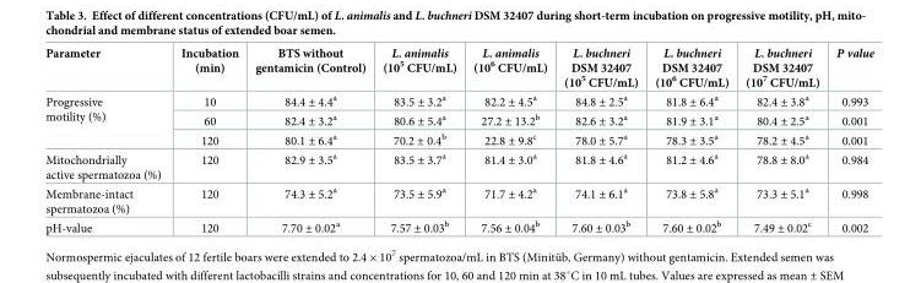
<table><thead><tr><td>Parameter</td><td>Incubation (min)</td><td>BTS without gentamicin (Control)</td><td>L. animalis (10<sup>5</sup> CFU/mL)</td><td>L. animalis (10<sup>6</sup> CFU/mL)</td><td>L. buchneri DSM 32407 (10<sup>5</sup> CFU/mL)</td><td>L. buchneri DSM 32407 (10<sup>6</sup> CFU/mL)</td><td>L. buchneri DSM 32407 (10<sup>7</sup> CFU/mL)</td><td>P value</td></tr></thead><tbody><tr><td rowspan="3">Progressive motility (%)</td><td>10</td><td>84.4 ± 4.4<sup>a</sup></td><td>83.5 ± 3.2<sup>a</sup></td><td>82.2 ± 4.5<sup>a</sup></td><td>84.8 ± 2.5<sup>a</sup></td><td>81.8 ± 6.4<sup>a</sup></td><td>82.4 ± 3.8<sup>a</sup></td><td>0.993</td></tr><tr><td>60</td><td>82.4 ± 3.2<sup>a</sup></td><td>80.6 ± 5.4<sup>a</sup></td><td>27.2 ± 13.2<sup>b</sup></td><td>82.6 ± 3.2<sup>a</sup></td><td>81.9 ± 3.1<sup>a</sup></td><td>80.4 ± 2.5<sup>a</sup></td><td>0.001</td></tr><tr><td>120</td><td>80.1 ± 6.4<sup>a</sup></td><td>70.2 ± 0.4<sup>b</sup></td><td>22.8 ± 9.8<sup>c</sup></td><td>78.0 ± 5.7<sup>a</sup></td><td>78.3 ± 3.5<sup>a</sup></td><td>78.2 ± 4.5<sup>a</sup></td><td>0.001</td></tr><tr><td>Mitochondrially active spermatozoa (%)</td><td>120</td><td>82.9 ± 3.5<sup>a</sup></td><td>83.5 ± 3.7<sup>a</sup></td><td>81.4 ± 3.0<sup>a</sup></td><td>81.8 ± 4.6<sup>a</sup></td><td>81.2 ± 4.6<sup>a</sup></td><td>78.8 ± 8.0<sup>a</sup></td><td>0.984</td></tr><tr><td>Membrane-intact spermatozoa (%)</td><td>120</td><td>74.3 ± 5.2<sup>a</sup></td><td>73.5 ± 5.9<sup>a</sup></td><td>71.7 ± 4.2<sup>a</sup></td><td>74.1 ± 6.1<sup>a</sup></td><td>73.8 ± 5.8<sup>a</sup></td><td>73.3 ± 5.1<sup>a</sup></td><td>0.998</td></tr><tr><td>pH-value</td><td>120</td><td>7.70 ± 0.02<sup>a</sup></td><td>7.57 ± 0.03<sup>b</sup></td><td>7.56 ± 0.04<sup>b</sup></td><td>7.60 ± 0.03<sup>b</sup></td><td>7.60 ± 0.02<sup>b</sup></td><td>7.49 ± 0.02<sup>c</sup></td><td>0.002</td></tr></tbody></table>